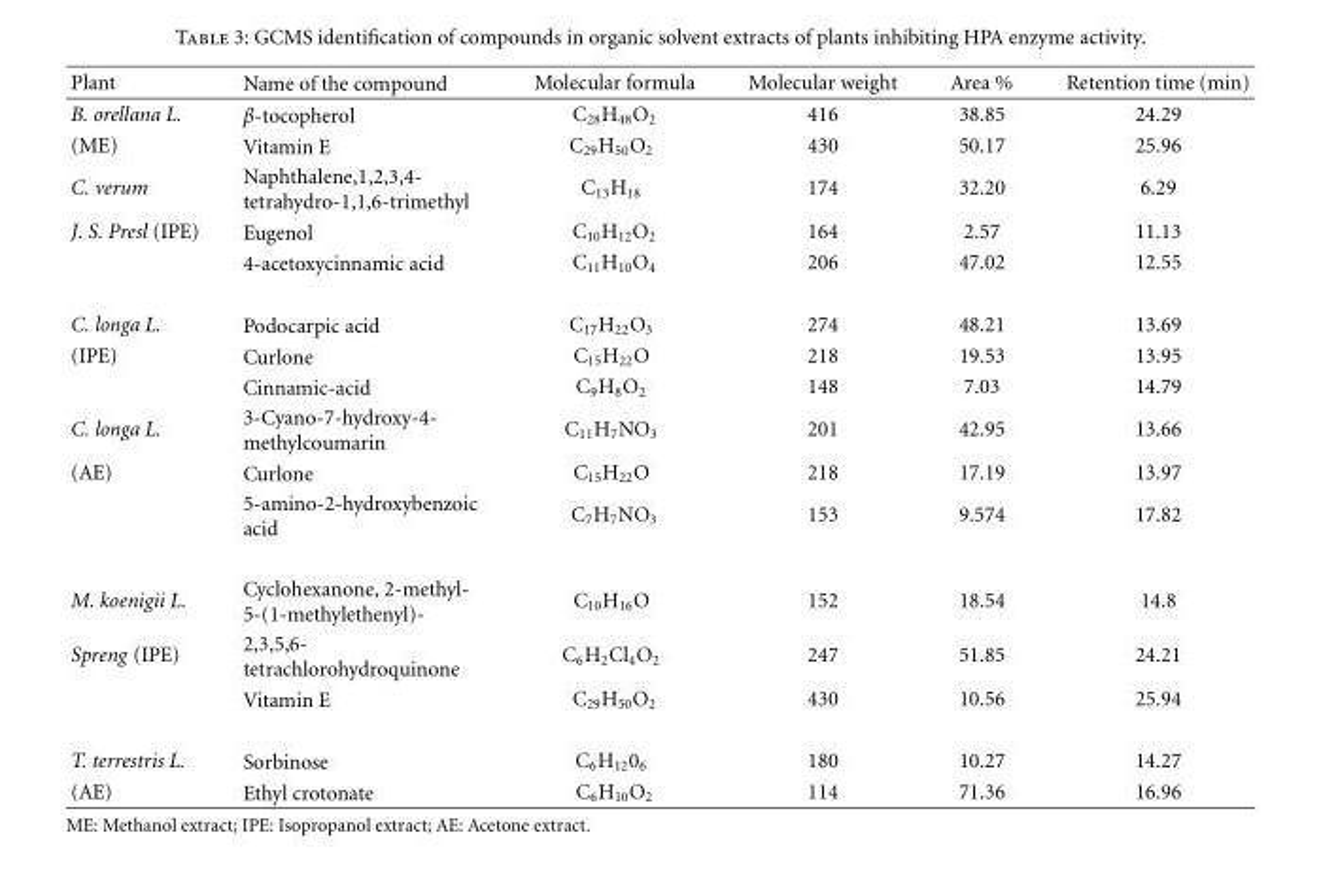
<table><thead><tr><td>Plant</td><td>Name of the compound</td><td>Molecular formula</td><td>Molecular weight</td><td>Area %</td><td>Retention time (min)</td></tr></thead><tbody><tr><td>B. orellana L.</td><td>β-tocopherol</td><td>C<sub>28</sub>H<sub>48</sub>O<sub>2</sub></td><td>416</td><td>38.85</td><td>24.29</td></tr><tr><td>(ME)</td><td>Vitamin E</td><td>C<sub>29</sub>H<sub>50</sub>O<sub>2</sub></td><td>430</td><td>50.17</td><td>25.96</td></tr><tr><td>C. verum</td><td>Naphthalene,1,2,3,4- tetrahydro-1,1,6-trimethyl</td><td>C<sub>13</sub>H<sub>18</sub></td><td>174</td><td>32.20</td><td>6.29</td></tr><tr><td rowspan="2">J. S. Presl (IPE)</td><td>Eugenol</td><td>C<sub>10</sub>H<sub>12</sub>O<sub>2</sub></td><td>164</td><td>2.57</td><td>11.13</td></tr><tr><td>4-acetoxycinnamic acid</td><td>C<sub>11</sub>H<sub>10</sub>O<sub>4</sub></td><td>206</td><td>47.02</td><td>12.55</td></tr><tr><td>C. longa L.</td><td>Podocarpic acid</td><td>C<sub>17</sub>H<sub>22</sub>O<sub>3</sub></td><td>274</td><td>48.21</td><td>13.69</td></tr><tr><td rowspan="2">(IPE)</td><td>Curlone</td><td>C<sub>15</sub>H<sub>22</sub>O</td><td>218</td><td>19.53</td><td>13.95</td></tr><tr><td>Cinnamic-acid</td><td>C<sub>9</sub>H<sub>8</sub>O<sub>2</sub></td><td>148</td><td>7.03</td><td>14.79</td></tr><tr><td>C. longa L.</td><td>3-Cyano-7-hydroxy-4- methylcoumarin</td><td>C<sub>11</sub>H<sub>7</sub>NO<sub>3</sub></td><td>201</td><td>42.95</td><td>13.66</td></tr><tr><td rowspan="2">(AE)</td><td>Curlone</td><td>C<sub>15</sub>H<sub>22</sub>O</td><td>218</td><td>17.19</td><td>13.97</td></tr><tr><td>5-amino-2-hydroxybenzoic acid</td><td>C<sub>7</sub>H<sub>7</sub>NO<sub>3</sub></td><td>153</td><td>9.574</td><td>17.82</td></tr><tr><td>M. koenigii L.</td><td>Cyclohexanone, 2-methyl- 5-(1-methylethenyl)-</td><td>C<sub>10</sub>H<sub>16</sub>O</td><td>152</td><td>18.54</td><td>14.8</td></tr><tr><td rowspan="2">Spreng (IPE)</td><td>2,3,5,6- tetrachlorohydroquinone</td><td>C<sub>6</sub>H<sub>2</sub>Cl<sub>4</sub>O<sub>2</sub></td><td>247</td><td>51.85</td><td>24.21</td></tr><tr><td>Vitamin E</td><td>C<sub>29</sub>H<sub>50</sub>O<sub>2</sub></td><td>430</td><td>10.56</td><td>25.94</td></tr><tr><td>T. terrestris L.</td><td>Sorbinose</td><td>C<sub>6</sub>H<sub>12</sub>0<sub>6</sub></td><td>180</td><td>10.27</td><td>14.27</td></tr><tr><td>(AE)</td><td>Ethyl crotonate</td><td>C<sub>6</sub>H<sub>10</sub>O<sub>2</sub></td><td>114</td><td>71.36</td><td>16.96</td></tr></tbody></table>